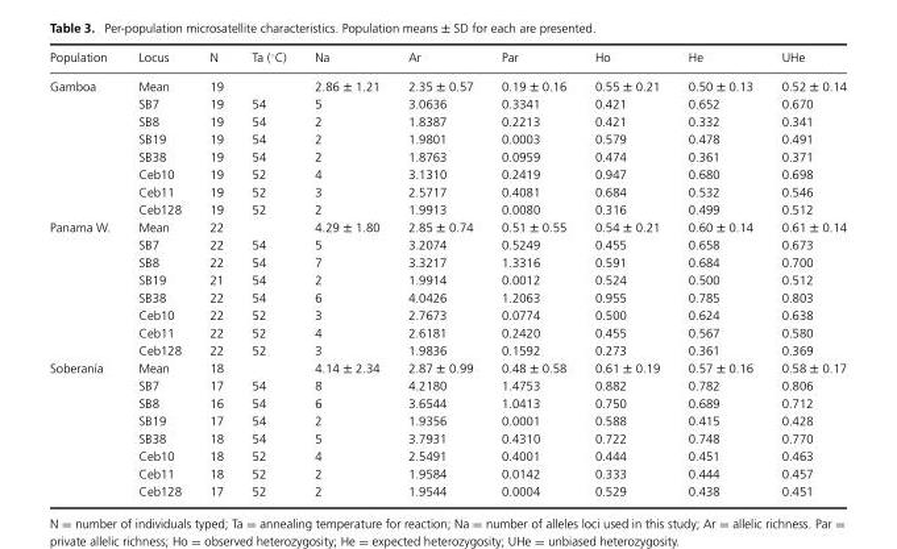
<table><thead><tr><td>Population</td><td>Locus</td><td>N</td><td>Ta (◦C)</td><td>Na</td><td>Ar</td><td>Par</td><td>Ho</td><td>He</td><td>UHe</td></tr></thead><tbody><tr><td rowspan="8">Gamboa</td><td>Mean</td><td>19</td><td></td><td>2.86 ± 1.21</td><td>2.35 ± 0.57</td><td>0.19 ± 0.16</td><td>0.55 ± 0.21</td><td>0.50 ± 0.13</td><td>0.52 ± 0.14</td></tr><tr><td>SB7</td><td>19</td><td>54</td><td>5</td><td>3.0636</td><td>0.3341</td><td>0.421</td><td>0.652</td><td>0.670</td></tr><tr><td>SB8</td><td>19</td><td>54</td><td>2</td><td>1.8387</td><td>0.2213</td><td>0.421</td><td>0.332</td><td>0.341</td></tr><tr><td>SB19</td><td>19</td><td>54</td><td>2</td><td>1.9801</td><td>0.0003</td><td>0.579</td><td>0.478</td><td>0.491</td></tr><tr><td>SB38</td><td>19</td><td>54</td><td>2</td><td>1.8763</td><td>0.0959</td><td>0.474</td><td>0.361</td><td>0.371</td></tr><tr><td>Ceb10</td><td>19</td><td>52</td><td>4</td><td>3.1310</td><td>0.2419</td><td>0.947</td><td>0.680</td><td>0.698</td></tr><tr><td>Ceb11</td><td>19</td><td>52</td><td>3</td><td>2.5717</td><td>0.4081</td><td>0.684</td><td>0.532</td><td>0.546</td></tr><tr><td>Ceb128</td><td>19</td><td>52</td><td>2</td><td>1.9913</td><td>0.0080</td><td>0.316</td><td>0.499</td><td>0.512</td></tr><tr><td rowspan="8">Panama W.</td><td>Mean</td><td>22</td><td></td><td>4.29 ± 1.80</td><td>2.85 ± 0.74</td><td>0.51 ± 0.55</td><td>0.54 ± 0.21</td><td>0.60 ± 0.14</td><td>0.61 ± 0.14</td></tr><tr><td>SB7</td><td>22</td><td>54</td><td>5</td><td>3.2074</td><td>0.5249</td><td>0.455</td><td>0.658</td><td>0.673</td></tr><tr><td>SB8</td><td>22</td><td>54</td><td>7</td><td>3.3217</td><td>1.3316</td><td>0.591</td><td>0.684</td><td>0.700</td></tr><tr><td>SB19</td><td>21</td><td>54</td><td>2</td><td>1.9914</td><td>0.0012</td><td>0.524</td><td>0.500</td><td>0.512</td></tr><tr><td>SB38</td><td>22</td><td>54</td><td>6</td><td>4.0426</td><td>1.2063</td><td>0.955</td><td>0.785</td><td>0.803</td></tr><tr><td>Ceb10</td><td>22</td><td>52</td><td>3</td><td>2.7673</td><td>0.0774</td><td>0.500</td><td>0.624</td><td>0.638</td></tr><tr><td>Ceb11</td><td>22</td><td>52</td><td>4</td><td>2.6181</td><td>0.2420</td><td>0.455</td><td>0.567</td><td>0.580</td></tr><tr><td>Ceb128</td><td>22</td><td>52</td><td>3</td><td>1.9836</td><td>0.1592</td><td>0.273</td><td>0.361</td><td>0.369</td></tr><tr><td rowspan="8">Soberan´ıa</td><td>Mean</td><td>18</td><td></td><td>4.14 ± 2.34</td><td>2.87 ± 0.99</td><td>0.48 ± 0.58</td><td>0.61 ± 0.19</td><td>0.57 ± 0.16</td><td>0.58 ± 0.17</td></tr><tr><td>SB7</td><td>17</td><td>54</td><td>8</td><td>4.2180</td><td>1.4753</td><td>0.882</td><td>0.782</td><td>0.806</td></tr><tr><td>SB8</td><td>16</td><td>54</td><td>6</td><td>3.6544</td><td>1.0413</td><td>0.750</td><td>0.689</td><td>0.712</td></tr><tr><td>SB19</td><td>17</td><td>54</td><td>2</td><td>1.9356</td><td>0.0001</td><td>0.588</td><td>0.415</td><td>0.428</td></tr><tr><td>SB38</td><td>18</td><td>54</td><td>5</td><td>3.7931</td><td>0.4310</td><td>0.722</td><td>0.748</td><td>0.770</td></tr><tr><td>Ceb10</td><td>18</td><td>52</td><td>4</td><td>2.5491</td><td>0.4001</td><td>0.444</td><td>0.451</td><td>0.463</td></tr><tr><td>Ceb11</td><td>18</td><td>52</td><td>2</td><td>1.9584</td><td>0.0142</td><td>0.333</td><td>0.444</td><td>0.457</td></tr><tr><td>Ceb128</td><td>17</td><td>52</td><td>2</td><td>1.9544</td><td>0.0004</td><td>0.529</td><td>0.438</td><td>0.451</td></tr></tbody></table>